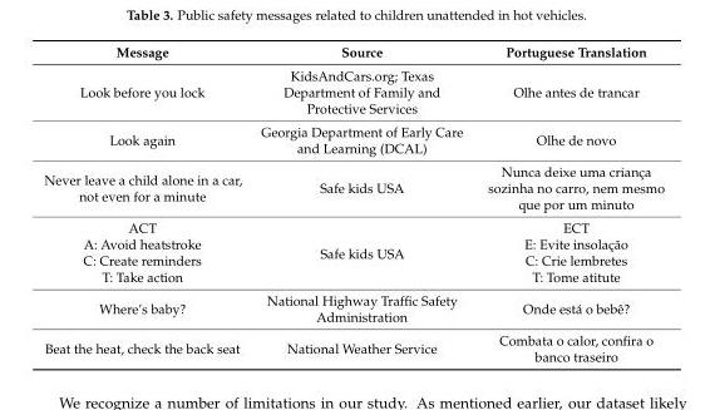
<table><thead><tr><td>Message</td><td>Source</td><td>Portuguese Translation</td></tr></thead><tbody><tr><td>Look before you lock</td><td>KidsAndCars.org; Texas Department of Family and Protective Services</td><td>Olhe antes de trancar</td></tr><tr><td>Look again</td><td>Georgia Department of Early Care and Learning (DCAL)</td><td>Olhe de novo</td></tr><tr><td>Never leave a child alone in a car, not even for a minute</td><td>Safe kids USA</td><td>Nunca deixe uma criança sozinha no carro, nem mesmo que por um minuto</td></tr><tr><td>ACT</td><td rowspan="4">Safe kids USA</td><td>ECT</td></tr><tr><td>A: Avoid heatstroke</td><td>E: Evite insolação</td></tr><tr><td>C: Create reminders</td><td>C: Crie lembretes</td></tr><tr><td>T: Take action</td><td>T: Tome atitute</td></tr><tr><td>Where’s baby?</td><td>National Highway Traffic Safety Administration</td><td>Onde está o bebê?</td></tr><tr><td>Beat the heat, check the back seat</td><td>National Weather Service</td><td>Combata o calor, confira o banco traseiro</td></tr></tbody></table>